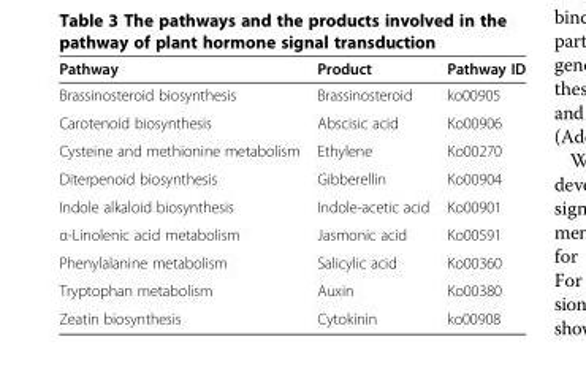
<table><thead><tr><td>Pathway</td><td>Product</td><td>Pathway ID</td></tr></thead><tbody><tr><td>Brassinosteroid biosynthesis</td><td>Brassinosteroid</td><td>ko00905</td></tr><tr><td>Carotenoid biosynthesis</td><td>Abscisic acid</td><td>Ko00906</td></tr><tr><td>Cysteine and methionine metabolism</td><td>Ethylene</td><td>Ko00270</td></tr><tr><td>Diterpenoid biosynthesis</td><td>Gibberellin</td><td>Ko00904</td></tr><tr><td>Indole alkaloid biosynthesis</td><td>Indole-acetic acid</td><td>Ko00901</td></tr><tr><td>α-Linolenic acid metabolism</td><td>Jasmonic acid</td><td>Ko00591</td></tr><tr><td>Phenylalanine metabolism</td><td>Salicylic acid</td><td>Ko00360</td></tr><tr><td>Tryptophan metabolism</td><td>Auxin</td><td>Ko00380</td></tr><tr><td>Zeatin biosynthesis</td><td>Cytokinin</td><td>ko00908</td></tr></tbody></table>